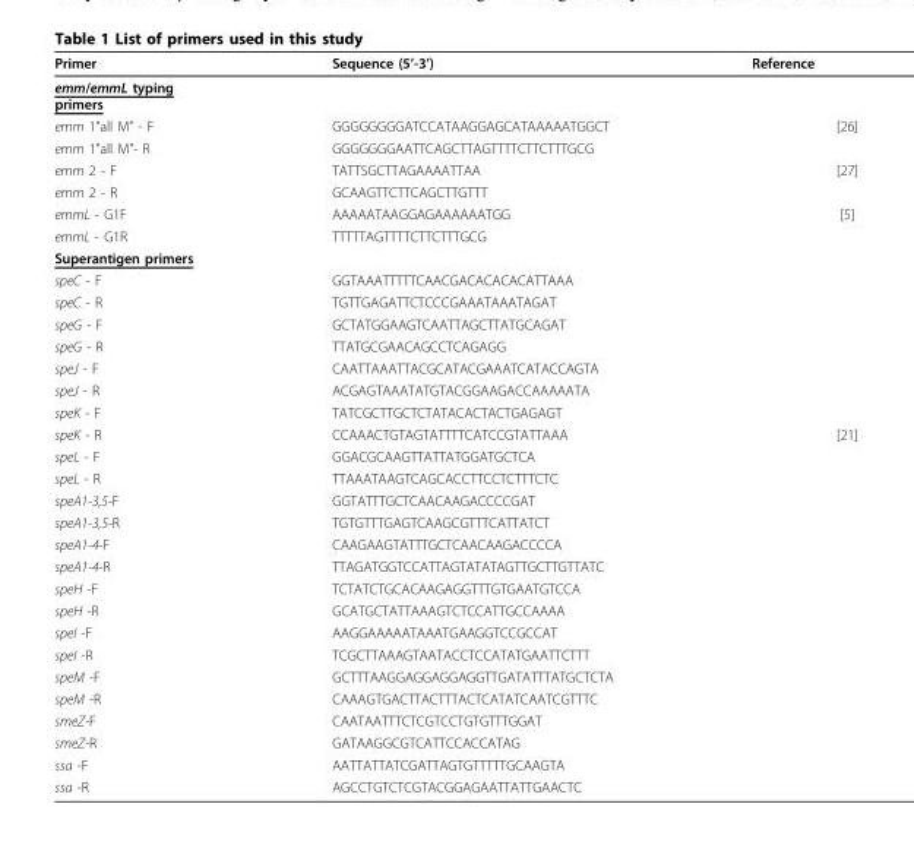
<table><thead><tr><td>Primer</td><td>Sequence (5’-3’)</td><td>Reference</td></tr></thead><tbody><tr><td colspan="3">emm/emmL typing primers</td></tr><tr><td>emm 1&quot;all M” - F</td><td>GGGGGGGGATCCATAAGGAGCATAAAAATGGCT</td><td>[26]</td></tr><tr><td>emm 1&quot;all M&quot;- R</td><td>GGGGGGGAATTCAGCTTAGTTTTCTTCTTTGCG</td><td></td></tr><tr><td>emm 2 - F</td><td>TATTSGCTTAGAAAATTAA</td><td>[27]</td></tr><tr><td>emm 2 - R</td><td>GCAAGTTCTTCAGCTTGTTT</td><td></td></tr><tr><td>emmL - G1F</td><td>AAAAATAAGGAGAAAAAATGG</td><td>[5]</td></tr><tr><td>emmL - G1R</td><td>TTTTTAGTTTTCTTCTTTGCG</td><td></td></tr><tr><td colspan="3">Superantigen primers</td></tr><tr><td>speC - F</td><td>GGTAAATTTTTCAACGACACACACATTAAA</td><td></td></tr><tr><td>speC - R</td><td>TGTTGAGATTCTCCCGAAATAAATAGAT</td><td></td></tr><tr><td>speG - F</td><td>GCTATGGAAGTCAATTAGCTTATGCAGAT</td><td></td></tr><tr><td>speG - R</td><td>TTATGCGAACAGCCTCAGAGG</td><td></td></tr><tr><td>speJ - F</td><td>CAATTAAATTACGCATACGAAATCATACCAGTA</td><td></td></tr><tr><td>speJ - R</td><td>ACGAGTAAATATGTACGGAAGACCAAAAATA</td><td></td></tr><tr><td>speK - F</td><td>TATCGCTTGCTCTATACACTACTGAGAGT</td><td></td></tr><tr><td>speK - R</td><td>CCAAACTGTAGTATTTTCATCCGTATTAAA</td><td>[21]</td></tr><tr><td>speL - F</td><td>GGACGCAAGTTATTATGGATGCTCA</td><td></td></tr><tr><td>speL - R</td><td>TTAAATAAGTCAGCACCTTCCTCTTTCTC</td><td></td></tr><tr><td>speA1-3,5-F</td><td>GGTATTTGCTCAACAAGACCCCGAT</td><td></td></tr><tr><td>speA1-3,5-R</td><td>TGTGTTTGAGTCAAGCGTTTCATTATCT</td><td></td></tr><tr><td>speA1-4-F</td><td>CAAGAAGTATTTGCTCAACAAGACCCCA</td><td></td></tr><tr><td>speA1-4-R</td><td>TTAGATGGTCCATTAGTATATAGTTGCTTGTTATC</td><td></td></tr><tr><td>speH -F</td><td>TCTATCTGCACAAGAGGTTTGTGAATGTCCA</td><td></td></tr><tr><td>speH -R</td><td>GCATGCTATTAAAGTCTCCATTGCCAAAA</td><td></td></tr><tr><td>speI -F</td><td>AAGGAAAAATAAATGAAGGTCCGCCAT</td><td></td></tr><tr><td>speI -R</td><td>TCGCTTAAAGTAATACCTCCATATGAATTCTTT</td><td></td></tr><tr><td>speM -F</td><td>GCTTTAAGGAGGAGGAGGTTGATATTTATGCTCTA</td><td></td></tr><tr><td>speM -R</td><td>CAAAGTGACTTACTTTACTCATATCAATCGTTTC</td><td></td></tr><tr><td>smeZ-F</td><td>CAATAATTTCTCGTCCTGTGTTTGGAT</td><td></td></tr><tr><td>smeZ-R</td><td>GATAAGGCGTCATTCCACCATAG</td><td></td></tr><tr><td>ssa -F</td><td>AATTATTATCGATTAGTGTTTTTGCAAGTA</td><td></td></tr><tr><td>ssa -R</td><td>AGCCTGTCTCGTACGGAGAATTATTGAACTC</td><td></td></tr></tbody></table>